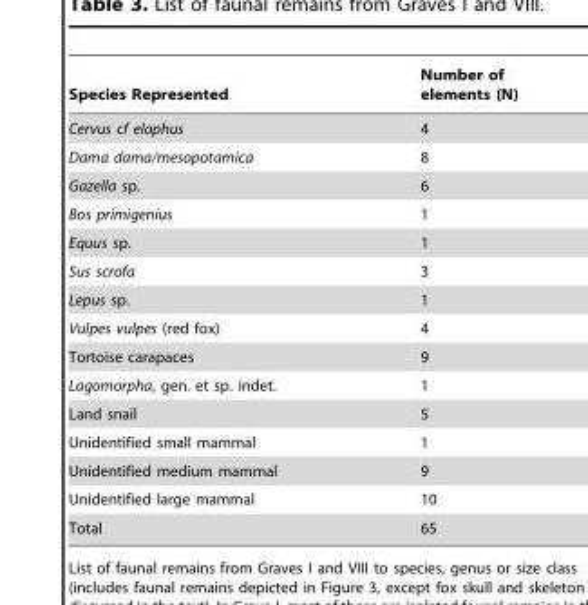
<table><thead><tr><td>Species Represented</td><td>Number of elements (N)</td></tr></thead><tbody><tr><td>Cervus cf elaphus</td><td>4</td></tr><tr><td>Dama dama/mesopotamica</td><td>8</td></tr><tr><td>Gazella sp.</td><td>6</td></tr><tr><td>Bos primigenius</td><td>1</td></tr><tr><td>Equus sp.</td><td>1</td></tr><tr><td>Sus scrofa</td><td>3</td></tr><tr><td>Lepus sp.</td><td>1</td></tr><tr><td>Vulpes vulpes (red fox)</td><td>4</td></tr><tr><td>Tortoise carapaces</td><td>9</td></tr><tr><td>Lagomorpha, gen. et sp. indet.</td><td>1</td></tr><tr><td>Land snail</td><td>5</td></tr><tr><td>Unidentified small mammal</td><td>1</td></tr><tr><td>Unidentified medium mammal</td><td>9</td></tr><tr><td>Unidentified large mammal</td><td>10</td></tr><tr><td>Total</td><td>65</td></tr></tbody></table>